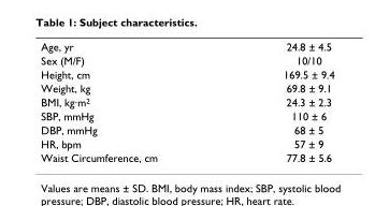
<table><tbody><tr><td>Age, yr</td><td>24.8 ± 4.5</td></tr><tr><td>Sex (M/F)</td><td>10/10</td></tr><tr><td>Height, cm</td><td>169.5 ± 9.4</td></tr><tr><td>Weight, kg</td><td>69.8 ± 9.1</td></tr><tr><td>BMI, kg·m<sup>2</sup></td><td>24.3 ± 2.3</td></tr><tr><td>SBP, mmHg</td><td>110 ± 6</td></tr><tr><td>DBP, mmHg</td><td>68 ± 5</td></tr><tr><td>HR, bpm</td><td>57 ± 9</td></tr><tr><td>Waist Circumference, cm</td><td>77.8 ± 5.6</td></tr></tbody></table>